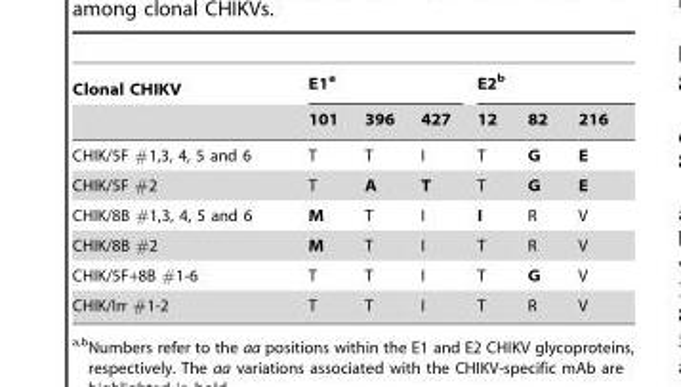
<table><thead><tr><td rowspan="2">Clonal CHIKV</td><td colspan="3">E1<sup>a</sup></td><td colspan="3">E2<sup>b</sup></td></tr><tr><td>101</td><td>396</td><td>427</td><td>12</td><td>82</td><td>216</td></tr></thead><tbody><tr><td>CHIK/5F #1,3, 4, 5 and 6</td><td>T</td><td>T</td><td>I</td><td>T</td><td>G</td><td>E</td></tr><tr><td>CHIK/5F #2</td><td>T</td><td>A</td><td>T</td><td>T</td><td>G</td><td>E</td></tr><tr><td>CHIK/8B #1,3, 4, 5 and 6</td><td>M</td><td>T</td><td>I</td><td>I</td><td>R</td><td>V</td></tr><tr><td>CHIK/8B #2</td><td>M</td><td>T</td><td>I</td><td>T</td><td>R</td><td>V</td></tr><tr><td>CHIK/5F+8B #1-6</td><td>T</td><td>T</td><td>I</td><td>T</td><td>G</td><td>V</td></tr><tr><td>CHIK/Irr #1-2</td><td>T</td><td>T</td><td>I</td><td>T</td><td>R</td><td>V</td></tr></tbody></table>